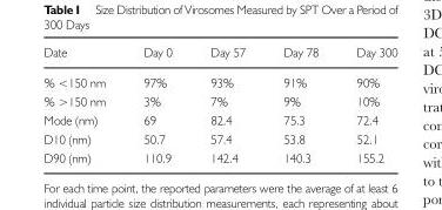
<table><thead><tr><td>Date</td><td>Day 0</td><td>Day 57</td><td>Day 78</td><td>Day 300</td></tr></thead><tbody><tr><td>% &lt;150 nm</td><td>97%</td><td>93%</td><td>91%</td><td>90%</td></tr><tr><td>% &gt;150 nm</td><td>3%</td><td>7%</td><td>9%</td><td>10%</td></tr><tr><td>Mode (nm)</td><td>69</td><td>82.4</td><td>75.3</td><td>72.4</td></tr><tr><td>D10 (nm)</td><td>50.7</td><td>57.4</td><td>53.8</td><td>52.1</td></tr><tr><td>D90 (nm)</td><td>110.9</td><td>142.4</td><td>140.3</td><td>155.2</td></tr></tbody></table>